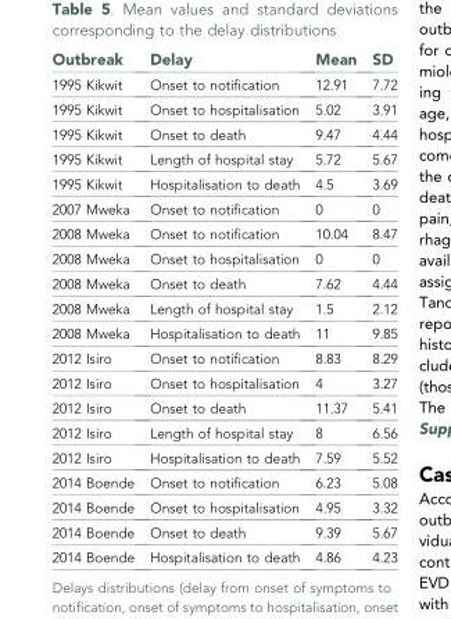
<table><thead><tr><td>Outbreak</td><td>Delay</td><td>Mean</td><td>SD</td></tr></thead><tbody><tr><td>1995 Kikwit</td><td>Onset to notification</td><td>12.91</td><td>7.72</td></tr><tr><td>1995 Kikwit</td><td>Onset to hospitalisation</td><td>5.02</td><td>3.91</td></tr><tr><td>1995 Kikwit</td><td>Onset to death</td><td>9.47</td><td>4.44</td></tr><tr><td>1995 Kikwit</td><td>Length of hospital stay</td><td>5.72</td><td>5.67</td></tr><tr><td>1995 Kikwit</td><td>Hospitalisation to death</td><td>4.5</td><td>3.69</td></tr><tr><td>2007 Mweka</td><td>Onset to notification</td><td>0</td><td>0</td></tr><tr><td>2008 Mweka</td><td>Onset to notification</td><td>10.04</td><td>8.47</td></tr><tr><td>2008 Mweka</td><td>Onset to hospitalisation</td><td>0</td><td>0</td></tr><tr><td>2008 Mweka</td><td>Onset to death</td><td>7.62</td><td>4.44</td></tr><tr><td>2008 Mweka</td><td>Length of hospital stay</td><td>1.5</td><td>2.12</td></tr><tr><td>2008 Mweka</td><td>Hospitalisation to death</td><td>11</td><td>9.85</td></tr><tr><td>2012 Isiro</td><td>Onset to notification</td><td>8.83</td><td>8.29</td></tr><tr><td>2012 Isiro</td><td>Onset to hospitalisation</td><td>4</td><td>3.27</td></tr><tr><td>2012 Isiro</td><td>Onset to death</td><td>11.37</td><td>5.41</td></tr><tr><td>2012 Isiro</td><td>Length of hospital stay</td><td>8</td><td>6.56</td></tr><tr><td>2012 Isiro</td><td>Hospitalisation to death</td><td>7.59</td><td>5.52</td></tr><tr><td>2014 Boende</td><td>Onset to notification</td><td>6.23</td><td>5.08</td></tr><tr><td>2014 Boende</td><td>Onset to hospitalisation</td><td>4.95</td><td>3.32</td></tr><tr><td>2014 Boende</td><td>Onset to death</td><td>9.39</td><td>5.67</td></tr><tr><td>2014 Boende</td><td>Hospitalisation to death</td><td>4.86</td><td>4.23</td></tr></tbody></table>